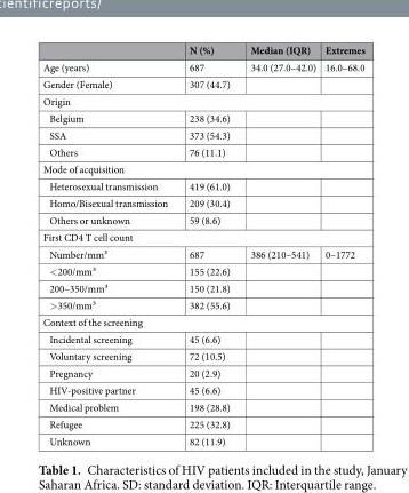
<table><thead><tr><td></td><td>N (%)</td><td>Median (IQR)</td><td>Extremes</td></tr></thead><tbody><tr><td>Age (years)</td><td>687</td><td>34.0 (27.0–42.0)</td><td>16.0–68.0</td></tr><tr><td>Gender (Female)</td><td>307 (44.7)</td><td></td><td></td></tr><tr><td colspan="4">Origin</td></tr><tr><td>Belgium</td><td>238 (34.6)</td><td></td><td></td></tr><tr><td>SSA</td><td>373 (54.3)</td><td></td><td></td></tr><tr><td>Others</td><td>76 (11.1)</td><td></td><td></td></tr><tr><td colspan="4">Mode of acquisition</td></tr><tr><td>Heterosexual transmission</td><td>419 (61.0)</td><td></td><td></td></tr><tr><td>Homo/Bisexual transmission</td><td>209 (30.4)</td><td></td><td></td></tr><tr><td>Others or unknown</td><td>59 (8.6)</td><td></td><td></td></tr><tr><td colspan="4">First CD4 T cell count</td></tr><tr><td>Number/mm³</td><td>687</td><td>386 (210–541)</td><td>0–1772</td></tr><tr><td>&lt;200/mm³</td><td>155 (22.6)</td><td></td><td></td></tr><tr><td>200–350/mm³</td><td>150 (21.8)</td><td></td><td></td></tr><tr><td>&gt;350/mm³</td><td>382 (55.6)</td><td></td><td></td></tr><tr><td colspan="4">Context of the screening</td></tr><tr><td>Incidental screening</td><td>45 (6.6)</td><td></td><td></td></tr><tr><td>Voluntary screening</td><td>72 (10.5)</td><td></td><td></td></tr><tr><td>Pregnancy</td><td>20 (2.9)</td><td></td><td></td></tr><tr><td>HIV-positive partner</td><td>45 (6.6)</td><td></td><td></td></tr><tr><td>Medical problem</td><td>198 (28.8)</td><td></td><td></td></tr><tr><td>Refugee</td><td>225 (32.8)</td><td></td><td></td></tr><tr><td>Unknown</td><td>82 (11.9)</td><td></td><td></td></tr></tbody></table>